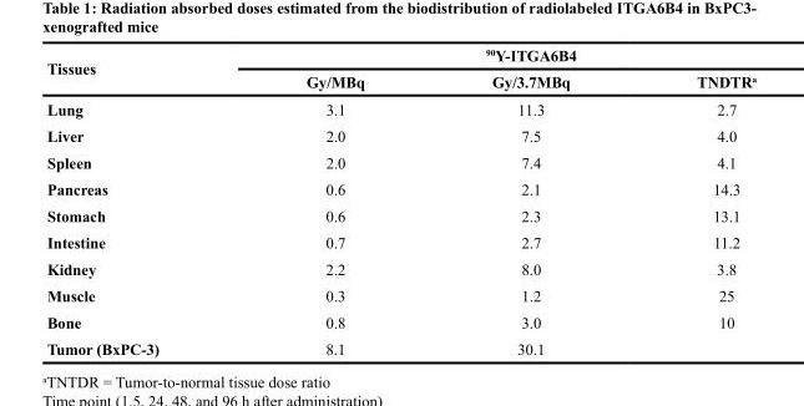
<table><thead><tr><td rowspan="2">Tissues</td><td colspan="3"><sup>90</sup>Y-ITGA6B4</td></tr><tr><td>Gy/MBq</td><td>Gy/3.7MBq</td><td>TNDTR<sup>a</sup></td></tr></thead><tbody><tr><td>Lung</td><td>3.1</td><td>11.3</td><td>2.7</td></tr><tr><td>Liver</td><td>2.0</td><td>7.5</td><td>4.0</td></tr><tr><td>Spleen</td><td>2.0</td><td>7.4</td><td>4.1</td></tr><tr><td>Pancreas</td><td>0.6</td><td>2.1</td><td>14.3</td></tr><tr><td>Stomach</td><td>0.6</td><td>2.3</td><td>13.1</td></tr><tr><td>Intestine</td><td>0.7</td><td>2.7</td><td>11.2</td></tr><tr><td>Kidney</td><td>2.2</td><td>8.0</td><td>3.8</td></tr><tr><td>Muscle</td><td>0.3</td><td>1.2</td><td>25</td></tr><tr><td>Bone</td><td>0.8</td><td>3.0</td><td>10</td></tr><tr><td>Tumor (BxPC-3)</td><td>8.1</td><td>30.1</td><td></td></tr></tbody></table>